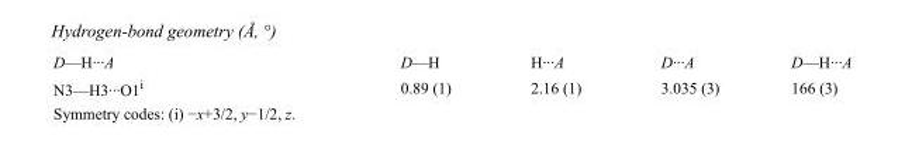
<table><tbody><tr><td>D—H···A</td><td>D—H</td><td>H···A</td><td>D···A</td><td>D—H···A</td></tr><tr><td>N3—H3···O1<sup>i</sup></td><td>0.89 (1)</td><td>2.16 (1)</td><td>3.035 (3)</td><td>166 (3)</td></tr></tbody></table>